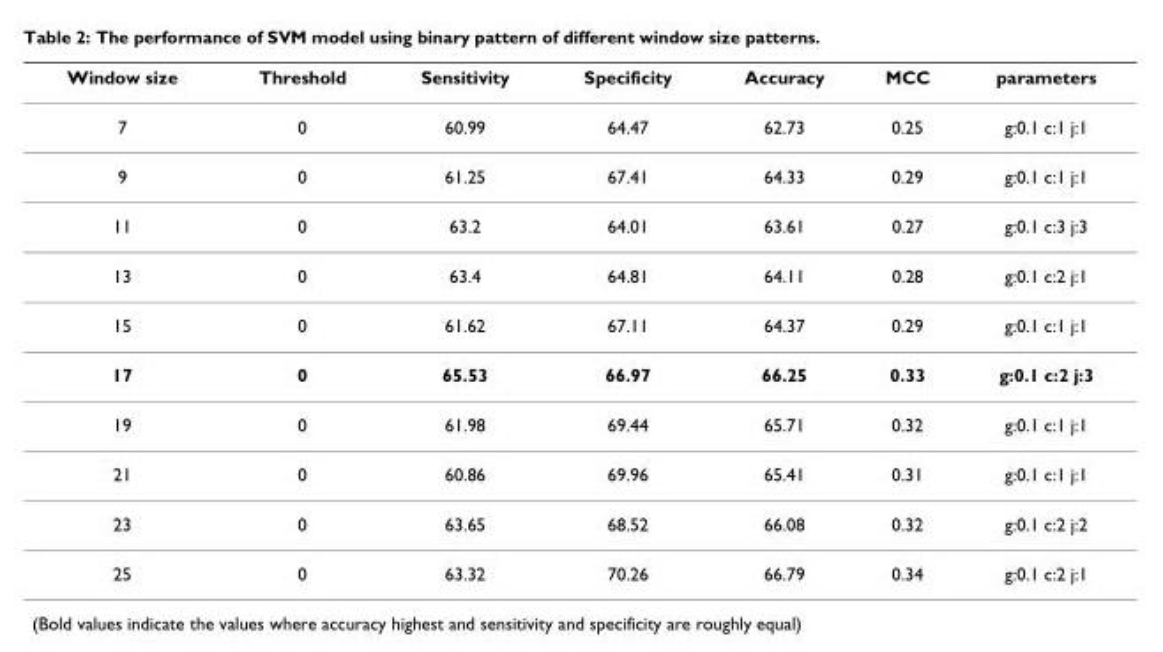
<table><thead><tr><td>Window size</td><td>Threshold</td><td>Sensitivity</td><td>Specificity</td><td>Accuracy</td><td>MCC</td><td>parameters</td></tr></thead><tbody><tr><td>7</td><td>0</td><td>60.99</td><td>64.47</td><td>62.73</td><td>0.25</td><td>g:0.1 c:1 j:1</td></tr><tr><td>9</td><td>0</td><td>61.25</td><td>67.41</td><td>64.33</td><td>0.29</td><td>g:0.1 c:1 j:1</td></tr><tr><td>11</td><td>0</td><td>63.2</td><td>64.01</td><td>63.61</td><td>0.27</td><td>g:0.1 c:3 j:3</td></tr><tr><td>13</td><td>0</td><td>63.4</td><td>64.81</td><td>64.11</td><td>0.28</td><td>g:0.1 c:2 j:1</td></tr><tr><td>15</td><td>0</td><td>61.62</td><td>67.11</td><td>64.37</td><td>0.29</td><td>g:0.1 c:1 j:1</td></tr><tr><td>17</td><td>0</td><td>65.53</td><td>66.97</td><td>66.25</td><td>0.33</td><td>g:0.1 c:2 j:3</td></tr><tr><td>19</td><td>0</td><td>61.98</td><td>69.44</td><td>65.71</td><td>0.32</td><td>g:0.1 c:1 j:1</td></tr><tr><td>21</td><td>0</td><td>60.86</td><td>69.96</td><td>65.41</td><td>0.31</td><td>g:0.1 c:1 j:1</td></tr><tr><td>23</td><td>0</td><td>63.65</td><td>68.52</td><td>66.08</td><td>0.32</td><td>g:0.1 c:2 j:2</td></tr><tr><td>25</td><td>0</td><td>63.32</td><td>70.26</td><td>66.79</td><td>0.34</td><td>g:0.1 c:2 j:1</td></tr></tbody></table>